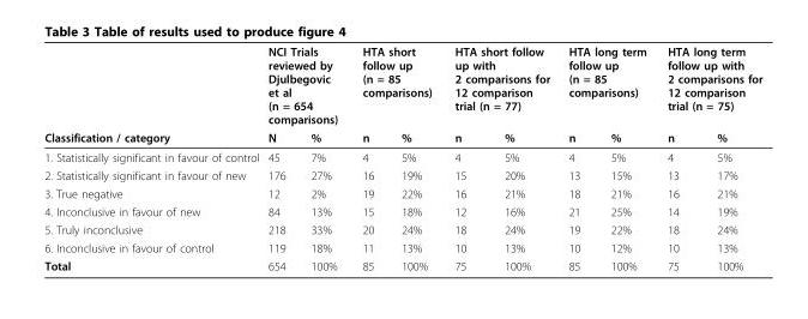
<table><thead><tr><td rowspan="2">Classification / category</td><td colspan="2">NCI Trials reviewed by Djulbegovic et al (n = 654 comparisons)</td><td colspan="2">HTA short follow up (n = 85 comparisons)</td><td colspan="2">HTA short follow up with 2 comparisons for 12 comparison trial (n = 77)</td><td colspan="2">HTA long term follow up (n = 85 comparisons)</td><td colspan="2">HTA long term follow up with 2 comparisons for 12 comparison trial (n = 75)</td></tr><tr><td>N</td><td>%</td><td>n</td><td>%</td><td>n</td><td>%</td><td>n</td><td>%</td><td>n</td><td>%</td></tr></thead><tbody><tr><td>1. Statistically significant in favour of control</td><td>45</td><td>7%</td><td>4</td><td>5%</td><td>4</td><td>5%</td><td>4</td><td>5%</td><td>4</td><td>5%</td></tr><tr><td>2. Statistically significant in favour of new</td><td>176</td><td>27%</td><td>16</td><td>19%</td><td>15</td><td>20%</td><td>13</td><td>15%</td><td>13</td><td>17%</td></tr><tr><td>3. True negative</td><td>12</td><td>2%</td><td>19</td><td>22%</td><td>16</td><td>21%</td><td>18</td><td>21%</td><td>16</td><td>21%</td></tr><tr><td>4. Inconclusive in favour of new</td><td>84</td><td>13%</td><td>15</td><td>18%</td><td>12</td><td>16%</td><td>21</td><td>25%</td><td>14</td><td>19%</td></tr><tr><td>5. Truly inconclusive</td><td>218</td><td>33%</td><td>20</td><td>24%</td><td>18</td><td>24%</td><td>19</td><td>22%</td><td>18</td><td>24%</td></tr><tr><td>6. Inconclusive in favour of control</td><td>119</td><td>18%</td><td>11</td><td>13%</td><td>10</td><td>13%</td><td>10</td><td>12%</td><td>10</td><td>13%</td></tr><tr><td>Total</td><td>654</td><td>100%</td><td>85</td><td>100%</td><td>75</td><td>100%</td><td>85</td><td>100%</td><td>75</td><td>100%</td></tr></tbody></table>